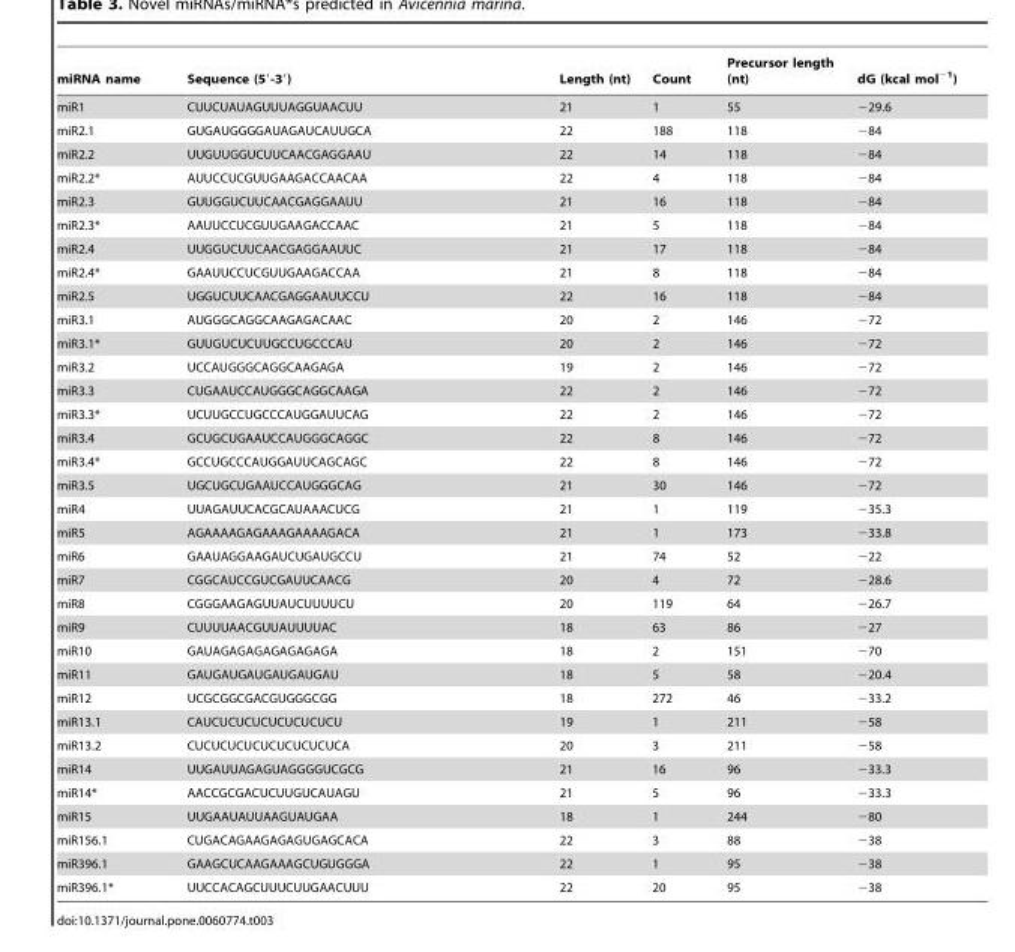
<table><thead><tr><td>miRNA name</td><td>Sequence (5′-3′)</td><td>Length (nt)</td><td>Count</td><td>Precursor length (nt)</td><td>dG (kcal mol<sup>−1</sup>)</td></tr></thead><tbody><tr><td>miR1</td><td>CUUCUAUAGUUUAGGUAACUU</td><td>21</td><td>1</td><td>55</td><td>−29.6</td></tr><tr><td>miR2.1</td><td>GUGAUGGGGAUAGAUCAUUGCA</td><td>22</td><td>188</td><td>118</td><td>−84</td></tr><tr><td>miR2.2</td><td>UUGUUGGUCUUCAACGAGGAAU</td><td>22</td><td>14</td><td>118</td><td>−84</td></tr><tr><td>miR2.2*</td><td>AUUCCUCGUUGAAGACCAACAA</td><td>22</td><td>4</td><td>118</td><td>−84</td></tr><tr><td>miR2.3</td><td>GUUGGUCUUCAACGAGGAAUU</td><td>21</td><td>16</td><td>118</td><td>−84</td></tr><tr><td>miR2.3*</td><td>AAUUCCUCGUUGAAGACCAAC</td><td>21</td><td>5</td><td>118</td><td>−84</td></tr><tr><td>miR2.4</td><td>UUGGUCUUCAACGAGGAAUUC</td><td>21</td><td>17</td><td>118</td><td>−84</td></tr><tr><td>miR2.4*</td><td>GAAUUCCUCGUUGAAGACCAA</td><td>21</td><td>8</td><td>118</td><td>−84</td></tr><tr><td>miR2.5</td><td>UGGUCUUCAACGAGGAAUUCCU</td><td>22</td><td>16</td><td>118</td><td>−84</td></tr><tr><td>miR3.1</td><td>AUGGGCAGGCAAGAGACAAC</td><td>20</td><td>2</td><td>146</td><td>−72</td></tr><tr><td>miR3.1*</td><td>GUUGUCUCUUGCCUGCCCAU</td><td>20</td><td>2</td><td>146</td><td>−72</td></tr><tr><td>miR3.2</td><td>UCCAUGGGCAGGCAAGAGA</td><td>19</td><td>2</td><td>146</td><td>−72</td></tr><tr><td>miR3.3</td><td>CUGAAUCCAUGGGCAGGCAAGA</td><td>22</td><td>2</td><td>146</td><td>−72</td></tr><tr><td>miR3.3*</td><td>UCUUGCCUGCCCAUGGAUUCAG</td><td>22</td><td>2</td><td>146</td><td>−72</td></tr><tr><td>miR3.4</td><td>GCUGCUGAAUCCAUGGGCAGGC</td><td>22</td><td>8</td><td>146</td><td>−72</td></tr><tr><td>miR3.4*</td><td>GCCUGCCCAUGGAUUCAGCAGC</td><td>22</td><td>8</td><td>146</td><td>−72</td></tr><tr><td>miR3.5</td><td>UGCUGCUGAAUCCAUGGGCAG</td><td>21</td><td>30</td><td>146</td><td>−72</td></tr><tr><td>miR4</td><td>UUAGAUUCACGCAUAAACUCG</td><td>21</td><td>1</td><td>119</td><td>−35.3</td></tr><tr><td>miR5</td><td>AGAAAAGAGAAAGAAAAGACA</td><td>21</td><td>1</td><td>173</td><td>−33.8</td></tr><tr><td>miR6</td><td>GAAUAGGAAGAUCUGAUGCCU</td><td>21</td><td>74</td><td>52</td><td>−22</td></tr><tr><td>miR7</td><td>CGGCAUCCGUCGAUUCAACG</td><td>20</td><td>4</td><td>72</td><td>−28.6</td></tr><tr><td>miR8</td><td>CGGGAAGAGUUAUCUUUUCU</td><td>20</td><td>119</td><td>64</td><td>−26.7</td></tr><tr><td>miR9</td><td>CUUUUAACGUUAUUUUAC</td><td>18</td><td>63</td><td>86</td><td>−27</td></tr><tr><td>miR10</td><td>GAUAGAGAGAGAGAGAGA</td><td>18</td><td>2</td><td>151</td><td>−70</td></tr><tr><td>miR11</td><td>GAUGAUGAUGAUGAUGAU</td><td>18</td><td>5</td><td>58</td><td>−20.4</td></tr><tr><td>miR12</td><td>UCGCGGCGACGUGGGCGG</td><td>18</td><td>272</td><td>46</td><td>−33.2</td></tr><tr><td>miR13.1</td><td>CAUCUCUCUCUCUCUCUCU</td><td>19</td><td>1</td><td>211</td><td>−58</td></tr><tr><td>miR13.2</td><td>CUCUCUCUCUCUCUCUCUCA</td><td>20</td><td>3</td><td>211</td><td>−58</td></tr><tr><td>miR14</td><td>UUGAUUAGAGUAGGGGUCGCG</td><td>21</td><td>16</td><td>96</td><td>−33.3</td></tr><tr><td>miR14*</td><td>AACCGCGACUCUUGUCAUAGU</td><td>21</td><td>5</td><td>96</td><td>−33.3</td></tr><tr><td>miR15</td><td>UUGAAUAUUAAGUAUGAA</td><td>18</td><td>1</td><td>244</td><td>−80</td></tr><tr><td>miR156.1</td><td>CUGACAGAAGAGAGUGAGCACA</td><td>22</td><td>3</td><td>88</td><td>−38</td></tr><tr><td>miR396.1</td><td>GAAGCUCAAGAAAGCUGUGGGA</td><td>22</td><td>1</td><td>95</td><td>−38</td></tr><tr><td>miR396.1*</td><td>UUCCACAGCUUUCUUGAACUUU</td><td>22</td><td>20</td><td>95</td><td>−38</td></tr></tbody></table>